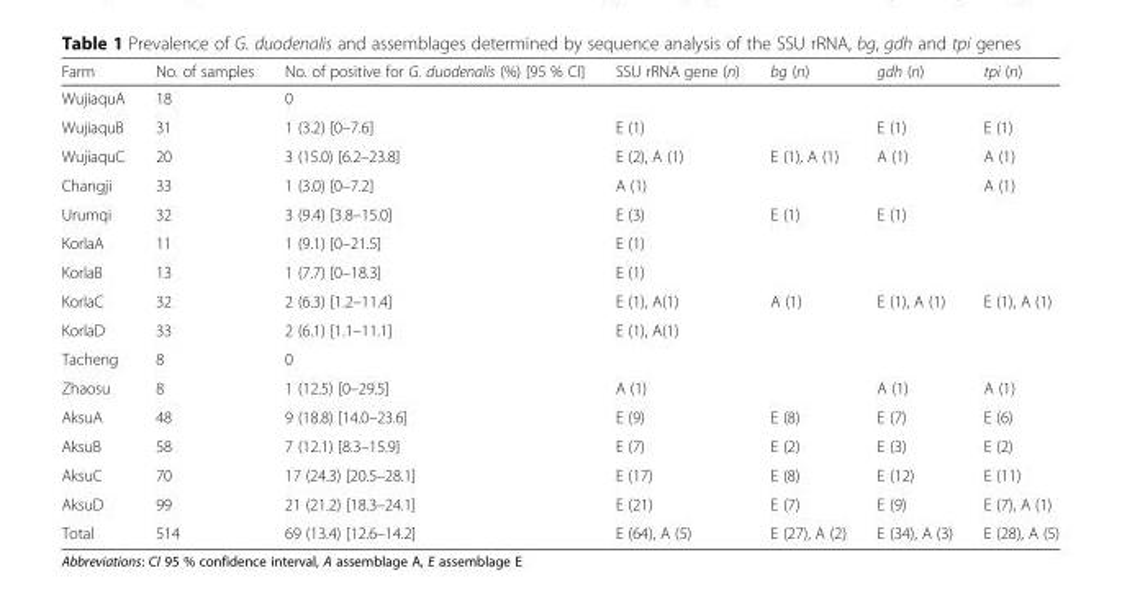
<table><thead><tr><td>Farm</td><td>No. of samples</td><td>No. of positive for G. duodenalis (%) [95 % CI]</td><td>SSU rRNA gene (n)</td><td>bg (n)</td><td>gdh (n)</td><td>tpi (n)</td></tr></thead><tbody><tr><td>WujiaquA</td><td>18</td><td>0</td><td></td><td></td><td></td><td></td></tr><tr><td>WujiaquB</td><td>31</td><td>1 (3.2) [0–7.6]</td><td>E (1)</td><td></td><td>E (1)</td><td>E (1)</td></tr><tr><td>WujiaquC</td><td>20</td><td>3 (15.0) [6.2–23.8]</td><td>E (2), A (1)</td><td>E (1), A (1)</td><td>A (1)</td><td>A (1)</td></tr><tr><td>Changji</td><td>33</td><td>1 (3.0) [0–7.2]</td><td>A (1)</td><td></td><td></td><td>A (1)</td></tr><tr><td>Urumqi</td><td>32</td><td>3 (9.4) [3.8–15.0]</td><td>E (3)</td><td>E (1)</td><td>E (1)</td><td></td></tr><tr><td>KorlaA</td><td>11</td><td>1 (9.1) [0–21.5]</td><td>E (1)</td><td></td><td></td><td></td></tr><tr><td>KorlaB</td><td>13</td><td>1 (7.7) [0–18.3]</td><td>E (1)</td><td></td><td></td><td></td></tr><tr><td>KorlaC</td><td>32</td><td>2 (6.3) [1.2–11.4]</td><td>E (1), A(1)</td><td>A (1)</td><td>E (1), A (1)</td><td>E (1), A (1)</td></tr><tr><td>KorlaD</td><td>33</td><td>2 (6.1) [1.1–11.1]</td><td>E (1), A(1)</td><td></td><td></td><td></td></tr><tr><td>Tacheng</td><td>8</td><td>0</td><td></td><td></td><td></td><td></td></tr><tr><td>Zhaosu</td><td>8</td><td>1 (12.5) [0–29.5]</td><td>A (1)</td><td></td><td>A (1)</td><td>A (1)</td></tr><tr><td>AksuA</td><td>48</td><td>9 (18.8) [14.0–23.6]</td><td>E (9)</td><td>E (8)</td><td>E (7)</td><td>E (6)</td></tr><tr><td>AksuB</td><td>58</td><td>7 (12.1) [8.3–15.9]</td><td>E (7)</td><td>E (2)</td><td>E (3)</td><td>E (2)</td></tr><tr><td>AksuC</td><td>70</td><td>17 (24.3) [20.5–28.1]</td><td>E (17)</td><td>E (8)</td><td>E (12)</td><td>E (11)</td></tr><tr><td>AksuD</td><td>99</td><td>21 (21.2) [18.3–24.1]</td><td>E (21)</td><td>E (7)</td><td>E (9)</td><td>E (7), A (1)</td></tr><tr><td>Total</td><td>514</td><td>69 (13.4) [12.6–14.2]</td><td>E (64), A (5)</td><td>E (27), A (2)</td><td>E (34), A (3)</td><td>E (28), A (5)</td></tr></tbody></table>